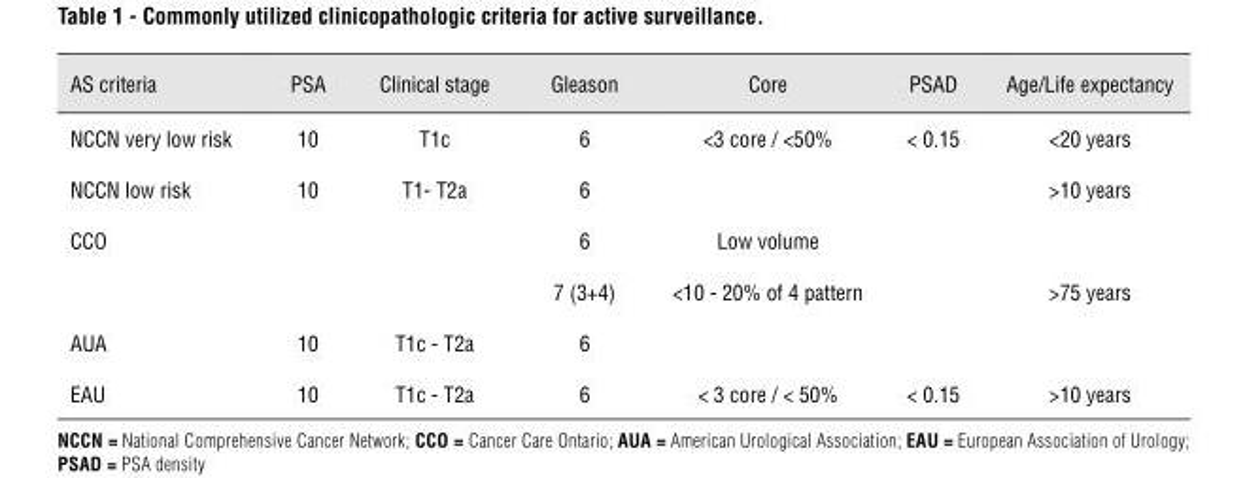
<table><thead><tr><td>AS criteria</td><td>PSA</td><td>Clinical stage</td><td>Gleason</td><td>Core</td><td>PSAD</td><td>Age/Life expectancy</td></tr></thead><tbody><tr><td>NCCN very low risk</td><td>10</td><td>T1c</td><td>6</td><td>&lt;3 core / &lt;50%</td><td>&lt; 0.15</td><td>&lt;20 years</td></tr><tr><td>NCCN low risk</td><td>10</td><td>T1- T2a</td><td>6</td><td></td><td></td><td>&gt;10 years</td></tr><tr><td rowspan="2">CCO</td><td></td><td></td><td>6</td><td>Low volume</td><td></td><td></td></tr><tr><td></td><td></td><td>7 (3+4)</td><td>&lt;10 - 20% of 4 pattern</td><td></td><td>&gt;75 years</td></tr><tr><td>AUA</td><td>10</td><td>T1c - T2a</td><td>6</td><td></td><td></td><td></td></tr><tr><td>EAU</td><td>10</td><td>T1c - T2a</td><td>6</td><td>&lt; 3 core / &lt; 50%</td><td>&lt; 0.15</td><td>&gt;10 years</td></tr></tbody></table>